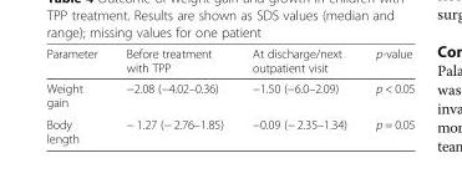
<table><thead><tr><td>Parameter</td><td>Before treatment with TPP</td><td>At discharge/next outpatient visit</td><td>p-value</td></tr></thead><tbody><tr><td>Weight gain</td><td>−2.08 (−4.02–0.36)</td><td>−1.50 (−6.0–2.09)</td><td>p &lt; 0.05</td></tr><tr><td>Body length</td><td>− 1.27 (− 2.76–1.85)</td><td>−0.09 (− 2.35–1.34)</td><td>p = 0.05</td></tr></tbody></table>